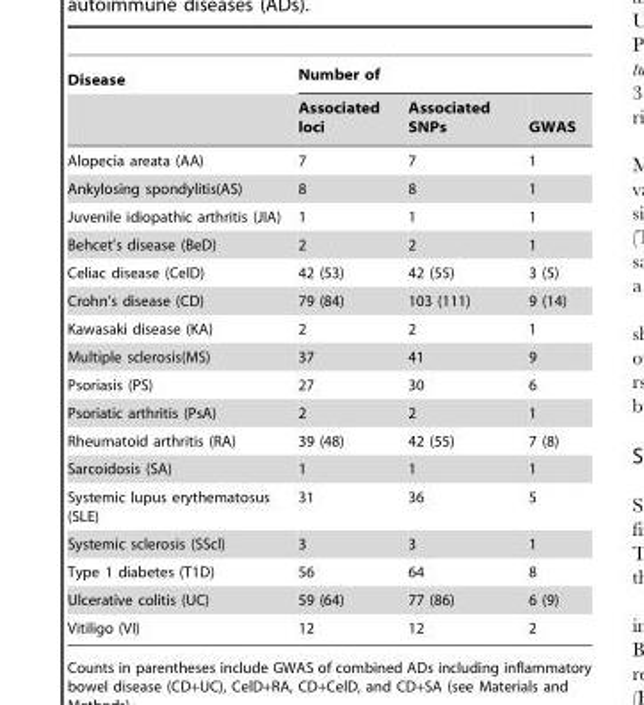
<table><thead><tr><td rowspan="2">Disease</td><td colspan="3">Number of</td></tr><tr><td>Associated loci</td><td>Associated SNPs</td><td>GWAS</td></tr></thead><tbody><tr><td>Alopecia areata (AA)</td><td>7</td><td>7</td><td>1</td></tr><tr><td>Ankylosing spondylitis(AS)</td><td>8</td><td>8</td><td>1</td></tr><tr><td>Juvenile idiopathic arthritis (JIA)</td><td>1</td><td>1</td><td>1</td></tr><tr><td>Behcet’s disease (BeD)</td><td>2</td><td>2</td><td>1</td></tr><tr><td>Celiac disease (CelD)</td><td>42 (53)</td><td>42 (55)</td><td>3 (5)</td></tr><tr><td>Crohn’s disease (CD)</td><td>79 (84)</td><td>103 (111)</td><td>9 (14)</td></tr><tr><td>Kawasaki disease (KA)</td><td>2</td><td>2</td><td>1</td></tr><tr><td>Multiple sclerosis(MS)</td><td>37</td><td>41</td><td>9</td></tr><tr><td>Psoriasis (PS)</td><td>27</td><td>30</td><td>6</td></tr><tr><td>Psoriatic arthritis (PsA)</td><td>2</td><td>2</td><td>1</td></tr><tr><td>Rheumatoid arthritis (RA)</td><td>39 (48)</td><td>42 (55)</td><td>7 (8)</td></tr><tr><td>Sarcoidosis (SA)</td><td>1</td><td>1</td><td>1</td></tr><tr><td>Systemic lupus erythematosus (SLE)</td><td>31</td><td>36</td><td>5</td></tr><tr><td>Systemic sclerosis (SScl)</td><td>3</td><td>3</td><td>1</td></tr><tr><td>Type 1 diabetes (T1D)</td><td>56</td><td>64</td><td>8</td></tr><tr><td>Ulcerative colitis (UC)</td><td>59 (64)</td><td>77 (86)</td><td>6 (9)</td></tr><tr><td>Vitiligo (VI)</td><td>12</td><td>12</td><td>2</td></tr></tbody></table>